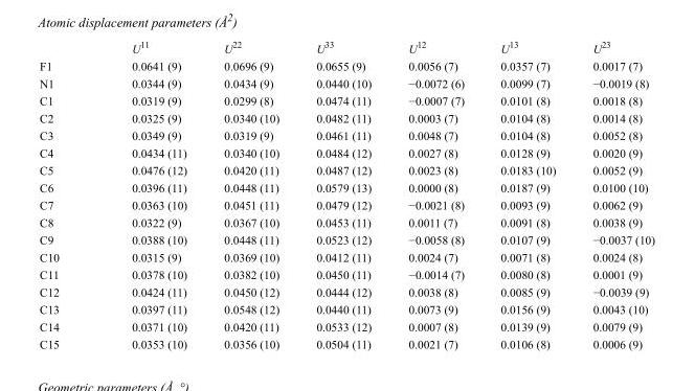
<table><thead><tr><td></td><td>U<sup>11</sup></td><td>U<sup>22</sup></td><td>U<sup>33</sup></td><td>U<sup>12</sup></td><td>U<sup>13</sup></td><td>U<sup>23</sup></td></tr></thead><tbody><tr><td>F1</td><td>0.0641 (9)</td><td>0.0696 (9)</td><td>0.0655 (9)</td><td>0.0056 (7)</td><td>0.0357 (7)</td><td>0.0017 (7)</td></tr><tr><td>N1</td><td>0.0344 (9)</td><td>0.0434 (9)</td><td>0.0440 (10)</td><td>−0.0072 (6)</td><td>0.0099 (7)</td><td>−0.0019 (8)</td></tr><tr><td>C1</td><td>0.0319 (9)</td><td>0.0299 (8)</td><td>0.0474 (11)</td><td>−0.0007 (7)</td><td>0.0101 (8)</td><td>0.0018 (8)</td></tr><tr><td>C2</td><td>0.0325 (9)</td><td>0.0340 (10)</td><td>0.0482 (11)</td><td>0.0003 (7)</td><td>0.0104 (8)</td><td>0.0014 (8)</td></tr><tr><td>C3</td><td>0.0349 (9)</td><td>0.0319 (9)</td><td>0.0461 (11)</td><td>0.0048 (7)</td><td>0.0104 (8)</td><td>0.0052 (8)</td></tr><tr><td>C4</td><td>0.0434 (11)</td><td>0.0340 (10)</td><td>0.0484 (12)</td><td>0.0027 (8)</td><td>0.0128 (9)</td><td>0.0020 (9)</td></tr><tr><td>C5</td><td>0.0476 (12)</td><td>0.0420 (11)</td><td>0.0487 (12)</td><td>0.0023 (8)</td><td>0.0183 (10)</td><td>0.0052 (9)</td></tr><tr><td>C6</td><td>0.0396 (11)</td><td>0.0448 (11)</td><td>0.0579 (13)</td><td>0.0000 (8)</td><td>0.0187 (9)</td><td>0.0100 (10)</td></tr><tr><td>C7</td><td>0.0363 (10)</td><td>0.0451 (11)</td><td>0.0479 (12)</td><td>−0.0021 (8)</td><td>0.0093 (9)</td><td>0.0062 (9)</td></tr><tr><td>C8</td><td>0.0322 (9)</td><td>0.0367 (10)</td><td>0.0453 (11)</td><td>0.0011 (7)</td><td>0.0091 (8)</td><td>0.0038 (9)</td></tr><tr><td>C9</td><td>0.0388 (10)</td><td>0.0448 (11)</td><td>0.0523 (12)</td><td>−0.0058 (8)</td><td>0.0107 (9)</td><td>−0.0037 (10)</td></tr><tr><td>C10</td><td>0.0315 (9)</td><td>0.0369 (10)</td><td>0.0412 (11)</td><td>0.0024 (7)</td><td>0.0071 (8)</td><td>0.0024 (8)</td></tr><tr><td>C11</td><td>0.0378 (10)</td><td>0.0382 (10)</td><td>0.0450 (11)</td><td>−0.0014 (7)</td><td>0.0080 (8)</td><td>0.0001 (9)</td></tr><tr><td>C12</td><td>0.0424 (11)</td><td>0.0450 (12)</td><td>0.0444 (12)</td><td>0.0038 (8)</td><td>0.0085 (9)</td><td>−0.0039 (9)</td></tr><tr><td>C13</td><td>0.0397 (11)</td><td>0.0548 (12)</td><td>0.0440 (11)</td><td>0.0073 (9)</td><td>0.0156 (9)</td><td>0.0043 (10)</td></tr><tr><td>C14</td><td>0.0371 (10)</td><td>0.0420 (11)</td><td>0.0533 (12)</td><td>0.0007 (8)</td><td>0.0139 (9)</td><td>0.0079 (9)</td></tr><tr><td>C15</td><td>0.0353 (10)</td><td>0.0356 (10)</td><td>0.0504 (11)</td><td>0.0021 (7)</td><td>0.0106 (8)</td><td>0.0006 (9)</td></tr></tbody></table>